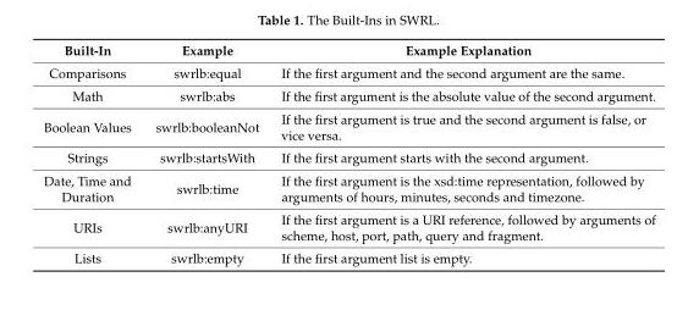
<table><thead><tr><td>Built-In</td><td>Example</td><td>Example Explanation</td></tr></thead><tbody><tr><td>Comparisons</td><td>swrlb:equal</td><td>If the first argument and the second argument are the same.</td></tr><tr><td>Math</td><td>swrlb:abs</td><td>If the first argument is the absolute value of the second argument.</td></tr><tr><td>Boolean Values</td><td>swrlb:booleanNot</td><td>If the first argument is true and the second argument is false, or vice versa.</td></tr><tr><td>Strings</td><td>swrlb:startsWith</td><td>If the first argument starts with the second argument.</td></tr><tr><td>Date, Time and Duration</td><td>swrlb:time</td><td>If the first argument is the xsd:time representation, followed by arguments of hours, minutes, seconds and timezone.</td></tr><tr><td>URIs</td><td>swrlb:anyURI</td><td>If the first argument is a URI reference, followed by arguments of scheme, host, port, path, query and fragment.</td></tr><tr><td>Lists</td><td>swrlb:empty</td><td>If the first argument list is empty.</td></tr></tbody></table>